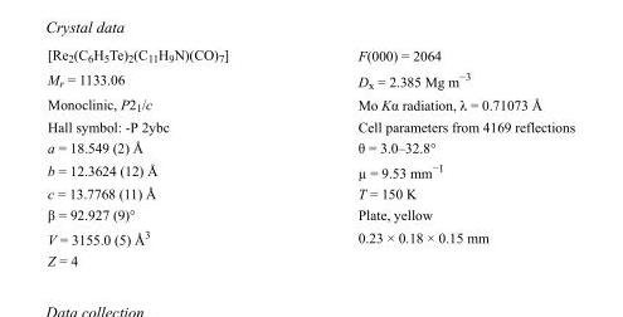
<table><tbody><tr><td>[Re<sub>2</sub>(C<sub>6</sub>H<sub>5</sub>Te)<sub>2</sub>(C<sub>11</sub>H<sub>9</sub>N)(CO)<sub>7</sub>]</td><td>F(000) = 2064</td></tr><tr><td>M<sub>r</sub> = 1133.06</td><td>D<sub>x</sub> = 2.385 Mg m<sup>−3</sup></td></tr><tr><td>Monoclinic, P2<sub>1</sub>/c</td><td>Mo Kα radiation, λ = 0.71073 Å</td></tr><tr><td>Hall symbol: -P 2ybc</td><td>Cell parameters from 4169 reflections</td></tr><tr><td>a = 18.549 (2) Å</td><td>θ = 3.0–32.8°</td></tr><tr><td>b = 12.3624 (12) Å</td><td>µ = 9.53 mm<sup>−1</sup></td></tr><tr><td>c = 13.7768 (11) Å</td><td>T = 150 K</td></tr><tr><td>β = 92.927 (9)°</td><td>Plate, yellow</td></tr><tr><td>V = 3155.0 (5) Å<sup>3</sup></td><td>0.23 × 0.18 × 0.15 mm</td></tr><tr><td>Z = 4</td><td></td></tr></tbody></table>